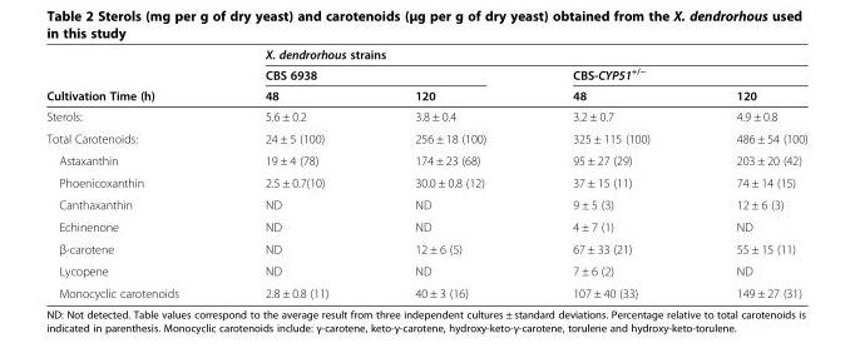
<table><thead><tr><td rowspan="3">Cultivation Time (h)</td><td colspan="4">X. dendrorhous strains</td></tr><tr><td colspan="2">CBS 6938</td><td colspan="2">CBS-CYP51<sup>+/−</sup></td></tr><tr><td>48</td><td>120</td><td>48</td><td>120</td></tr></thead><tbody><tr><td>Sterols:</td><td>5.6 ± 0.2</td><td>3.8 ± 0.4</td><td>3.2 ± 0.7</td><td>4.9 ± 0.8</td></tr><tr><td>Total Carotenoids:</td><td>24 ± 5 (100)</td><td>256 ± 18 (100)</td><td>325 ± 115 (100)</td><td>486 ± 54 (100)</td></tr><tr><td>Astaxanthin</td><td>19 ± 4 (78)</td><td>174 ± 23 (68)</td><td>95 ± 27 (29)</td><td>203 ± 20 (42)</td></tr><tr><td>Phoenicoxanthin</td><td>2.5 ± 0.7(10)</td><td>30.0 ± 0.8 (12)</td><td>37 ± 15 (11)</td><td>74 ± 14 (15)</td></tr><tr><td>Canthaxanthin</td><td>ND</td><td>ND</td><td>9 ± 5 (3)</td><td>12 ± 6 (3)</td></tr><tr><td>Echinenone</td><td>ND</td><td>ND</td><td>4 ± 7 (1)</td><td>ND</td></tr><tr><td>β-carotene</td><td>ND</td><td>12 ± 6 (5)</td><td>67 ± 33 (21)</td><td>55 ± 15 (11)</td></tr><tr><td>Lycopene</td><td>ND</td><td>ND</td><td>7 ± 6 (2)</td><td>ND</td></tr><tr><td>Monocyclic carotenoids</td><td>2.8 ± 0.8 (11)</td><td>40 ± 3 (16)</td><td>107 ± 40 (33)</td><td>149 ± 27 (31)</td></tr></tbody></table>